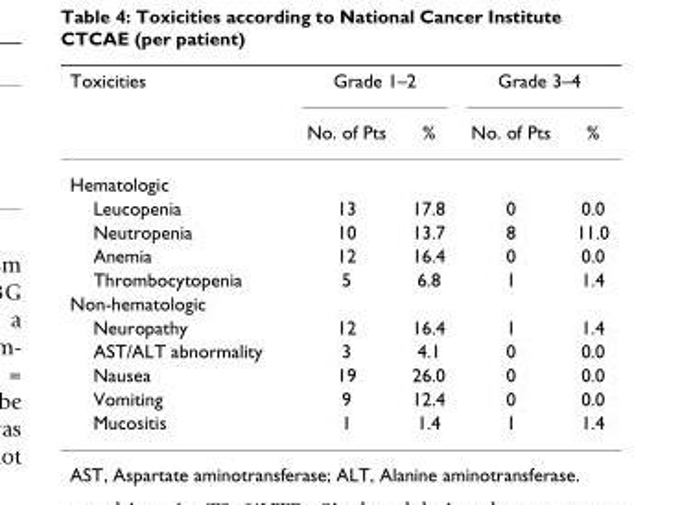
<table><thead><tr><td rowspan="2">Toxicities</td><td colspan="2">Grade 1–2</td><td colspan="2">Grade 3–4</td></tr><tr><td>No. of Pts</td><td>%</td><td>No. of Pts</td><td>%</td></tr></thead><tbody><tr><td colspan="5">Hematologic</td></tr><tr><td>Leucopenia</td><td>13</td><td>17.8</td><td>0</td><td>0.0</td></tr><tr><td>Neutropenia</td><td>10</td><td>13.7</td><td>8</td><td>11.0</td></tr><tr><td>Anemia</td><td>12</td><td>16.4</td><td>0</td><td>0.0</td></tr><tr><td>Thrombocytopenia</td><td>5</td><td>6.8</td><td>1</td><td>1.4</td></tr><tr><td colspan="5">Non-hematologic</td></tr><tr><td>Neuropathy</td><td>12</td><td>16.4</td><td>1</td><td>1.4</td></tr><tr><td>AST/ALT abnormality</td><td>3</td><td>4.1</td><td>0</td><td>0.0</td></tr><tr><td>Nausea</td><td>19</td><td>26.0</td><td>0</td><td>0.0</td></tr><tr><td>Vomiting</td><td>9</td><td>12.4</td><td>0</td><td>0.0</td></tr><tr><td>Mucositis</td><td>1</td><td>1.4</td><td>1</td><td>1.4</td></tr></tbody></table>